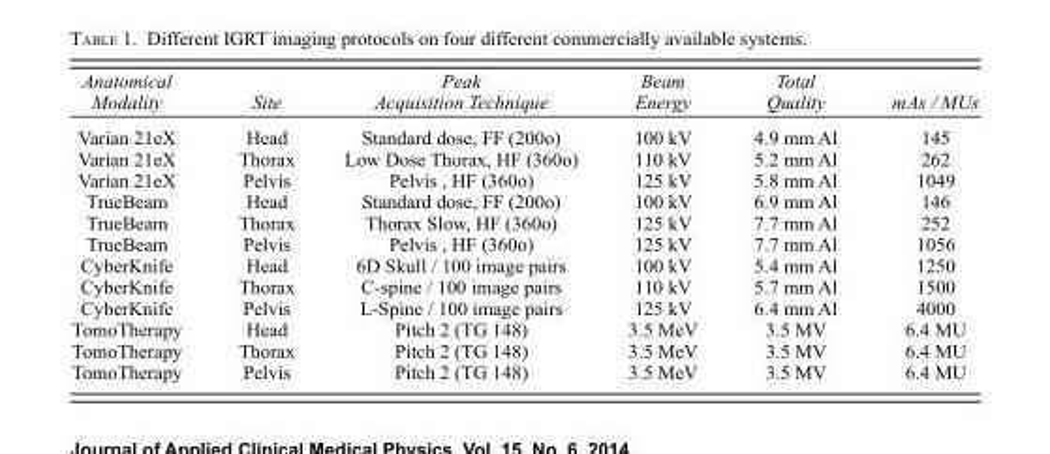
<table><thead><tr><td>Anatomical Modality</td><td>Site</td><td>Peak Acquisition Technique</td><td>Beam Energy</td><td>Total Quality</td><td>mAs / MUs</td></tr></thead><tbody><tr><td>Varian 21eX</td><td>Head</td><td>Standard dose, FF (200o)</td><td>100 kV</td><td>4.9 mm Al</td><td>145</td></tr><tr><td>Varian 21eX</td><td>Thorax</td><td>Low Dose Thorax, HF (360o)</td><td>110 kV</td><td>5.2 mm Al</td><td>262</td></tr><tr><td>Varian 21eX</td><td>Pelvis</td><td>Pelvis , HF (360o)</td><td>125 kV</td><td>5.8 mm Al</td><td>1049</td></tr><tr><td>TrueBeam</td><td>Head</td><td>Standard dose, FF (200o)</td><td>100 kV</td><td>6.9 mm Al</td><td>146</td></tr><tr><td>TrueBeam</td><td>Thorax</td><td>Thorax Slow, HF (360o)</td><td>125 kV</td><td>7.7 mm Al</td><td>252</td></tr><tr><td>TrueBeam</td><td>Pelvis</td><td>Pelvis , HF (360o)</td><td>125 kV</td><td>7.7 mm Al</td><td>1056</td></tr><tr><td>CyberKnife</td><td>Head</td><td>6D Skull / 100 image pairs</td><td>100 kV</td><td>5.4 mm Al</td><td>1250</td></tr><tr><td>CyberKnife</td><td>Thorax</td><td>C-spine / 100 image pairs</td><td>110 kV</td><td>5.7 mm Al</td><td>1500</td></tr><tr><td>CyberKnife</td><td>Pelvis</td><td>L-Spine / 100 image pairs</td><td>125 kV</td><td>6.4 mm Al</td><td>4000</td></tr><tr><td>TomoTherapy</td><td>Head</td><td>Pitch 2 (TG 148)</td><td>3.5 MeV</td><td>3.5 MV</td><td>6.4 MU</td></tr><tr><td>TomoTherapy</td><td>Thorax</td><td>Pitch 2 (TG 148)</td><td>3.5 MeV</td><td>3.5 MV</td><td>6.4 MU</td></tr><tr><td>TomoTherapy</td><td>Pelvis</td><td>Pitch 2 (TG 148)</td><td>3.5 MeV</td><td>3.5 MV</td><td>6.4 MU</td></tr></tbody></table>